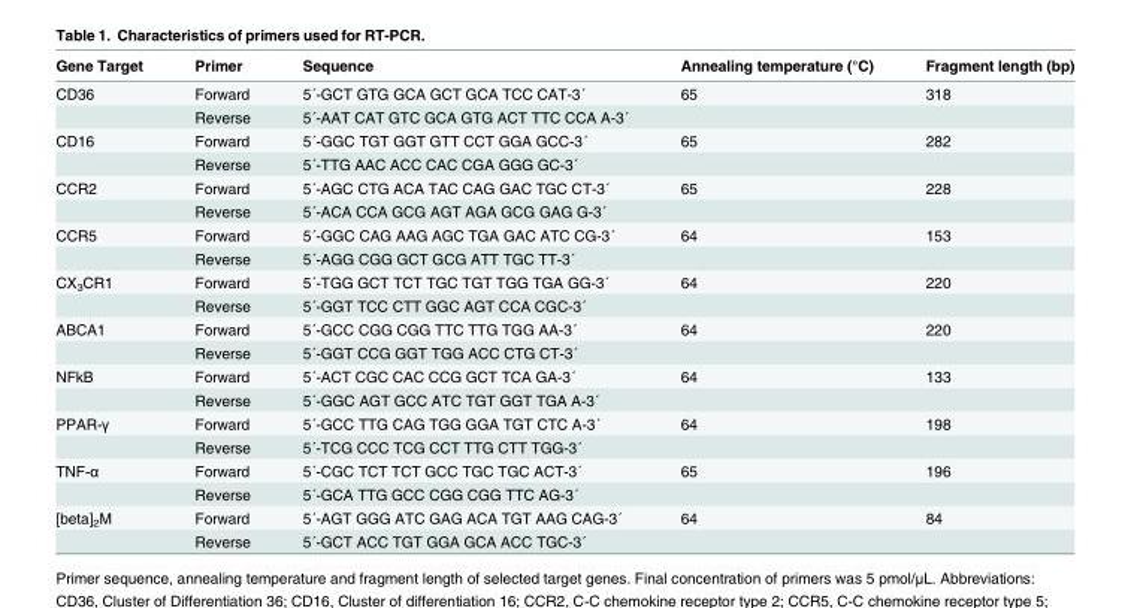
<table><thead><tr><td>Gene Target</td><td>Primer</td><td>Sequence</td><td>Annealing temperature (°C)</td><td>Fragment length (bp)</td></tr></thead><tbody><tr><td rowspan="2">CD36</td><td>Forward</td><td>5´-GCT GTG GCA GCT GCA TCC CAT-3´</td><td>65</td><td>318</td></tr><tr><td>Reverse</td><td>5´-AAT CAT GTC GCA GTG ACT TTC CCA A-3´</td><td></td><td></td></tr><tr><td rowspan="2">CD16</td><td>Forward</td><td>5´-GGC TGT GGT GTT CCT GGA GCC-3´</td><td>65</td><td>282</td></tr><tr><td>Reverse</td><td>5´-TTG AAC ACC CAC CGA GGG GC-3´</td><td></td><td></td></tr><tr><td rowspan="2">CCR2</td><td>Forward</td><td>5´-AGC CTG ACA TAC CAG GAC TGC CT-3´</td><td>65</td><td>228</td></tr><tr><td>Reverse</td><td>5´-ACA CCA GCG AGT AGA GCG GAG G-3´</td><td></td><td></td></tr><tr><td rowspan="2">CCR5</td><td>Forward</td><td>5´-GGC CAG AAG AGC TGA GAC ATC CG-3´</td><td>64</td><td>153</td></tr><tr><td>Reverse</td><td>5´-AGG CGG GCT GCG ATT TGC TT-3´</td><td></td><td></td></tr><tr><td rowspan="2">CX<sub>3</sub>CR1</td><td>Forward</td><td>5´-TGG GCT TCT TGC TGT TGG TGA GG-3´</td><td>64</td><td>220</td></tr><tr><td>Reverse</td><td>5´-GGT TCC CTT GGC AGT CCA CGC-3´</td><td></td><td></td></tr><tr><td rowspan="2">ABCA1</td><td>Forward</td><td>5´-GCC CGG CGG TTC TTG TGG AA-3´</td><td>64</td><td>220</td></tr><tr><td>Reverse</td><td>5´-GGT CCG GGT TGG ACC CTG CT-3´</td><td></td><td></td></tr><tr><td rowspan="2">NFkB</td><td>Forward</td><td>5´-ACT CGC CAC CCG GCT TCA GA-3´</td><td>64</td><td>133</td></tr><tr><td>Reverse</td><td>5´-GGC AGT GCC ATC TGT GGT TGA A-3´</td><td></td><td></td></tr><tr><td rowspan="2">PPAR-γ</td><td>Forward</td><td>5´-GCC TTG CAG TGG GGA TGT CTC A-3´</td><td>64</td><td>198</td></tr><tr><td>Reverse</td><td>5´-TCG CCC TCG CCT TTG CTT TGG-3´</td><td></td><td></td></tr><tr><td rowspan="2">TNF-α</td><td>Forward</td><td>5´-CGC TCT TCT GCC TGC TGC ACT-3´</td><td>65</td><td>196</td></tr><tr><td>Reverse</td><td>5´-GCA TTG GCC CGG CGG TTC AG-3´</td><td></td><td></td></tr><tr><td rowspan="2">[beta]<sub>2</sub>M</td><td>Forward</td><td>5´-AGT GGG ATC GAG ACA TGT AAG CAG-3´</td><td>64</td><td>84</td></tr><tr><td>Reverse</td><td>5´-GCT ACC TGT GGA GCA ACC TGC-3´</td><td></td><td></td></tr></tbody></table>